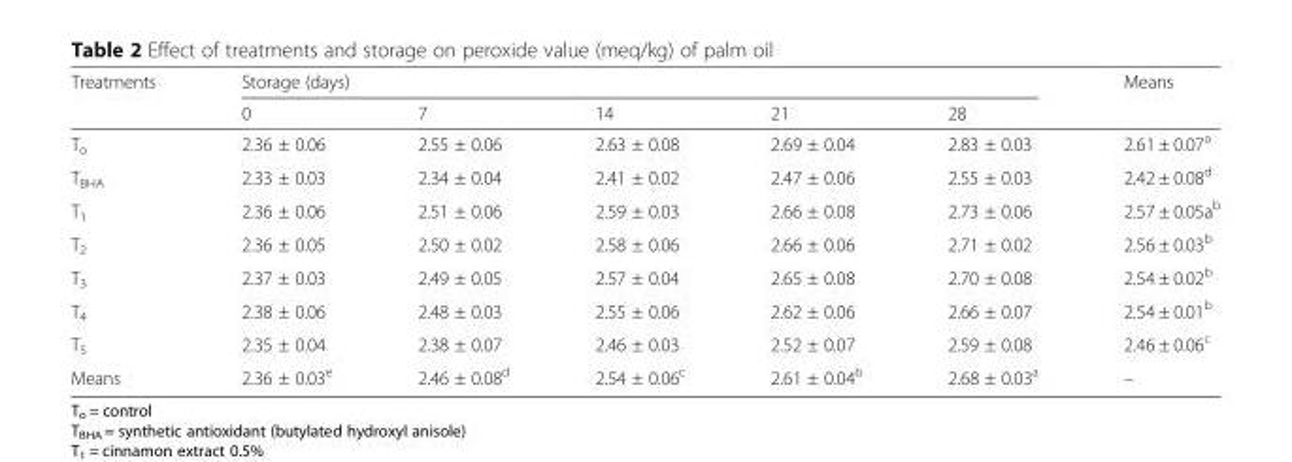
<table><thead><tr><td rowspan="2">Treatments</td><td colspan="5">Storage (days)</td><td rowspan="2">Means</td></tr><tr><td>0</td><td>7</td><td>14</td><td>21</td><td>28</td></tr></thead><tbody><tr><td>T<sub>o</sub></td><td>2.36 ± 0.06</td><td>2.55 ± 0.06</td><td>2.63 ± 0.08</td><td>2.69 ± 0.04</td><td>2.83 ± 0.03</td><td>2.61 ± 0.07<sup>a</sup></td></tr><tr><td>T<sub>BHA</sub></td><td>2.33 ± 0.03</td><td>2.34 ± 0.04</td><td>2.41 ± 0.02</td><td>2.47 ± 0.06</td><td>2.55 ± 0.03</td><td>2.42 ± 0.08<sup>d</sup></td></tr><tr><td>T<sub>1</sub></td><td>2.36 ± 0.06</td><td>2.51 ± 0.06</td><td>2.59 ± 0.03</td><td>2.66 ± 0.08</td><td>2.73 ± 0.06</td><td>2.57 ± 0.05a<sup>b</sup></td></tr><tr><td>T<sub>2</sub></td><td>2.36 ± 0.05</td><td>2.50 ± 0.02</td><td>2.58 ± 0.06</td><td>2.66 ± 0.06</td><td>2.71 ± 0.02</td><td>2.56 ± 0.03<sup>b</sup></td></tr><tr><td>T<sub>3</sub></td><td>2.37 ± 0.03</td><td>2.49 ± 0.05</td><td>2.57 ± 0.04</td><td>2.65 ± 0.08</td><td>2.70 ± 0.08</td><td>2.54 ± 0.02<sup>b</sup></td></tr><tr><td>T<sub>4</sub></td><td>2.38 ± 0.06</td><td>2.48 ± 0.03</td><td>2.55 ± 0.06</td><td>2.62 ± 0.06</td><td>2.66 ± 0.07</td><td>2.54 ± 0.01<sup>b</sup></td></tr><tr><td>T<sub>5</sub></td><td>2.35 ± 0.04</td><td>2.38 ± 0.07</td><td>2.46 ± 0.03</td><td>2.52 ± 0.07</td><td>2.59 ± 0.08</td><td>2.46 ± 0.06<sup>c</sup></td></tr><tr><td>Means</td><td>2.36 ± 0.03<sup>e</sup></td><td>2.46 ± 0.08<sup>d</sup></td><td>2.54 ± 0.06<sup>c</sup></td><td>2.61 ± 0.04<sup>b</sup></td><td>2.68 ± 0.03<sup>a</sup></td><td>–</td></tr></tbody></table>